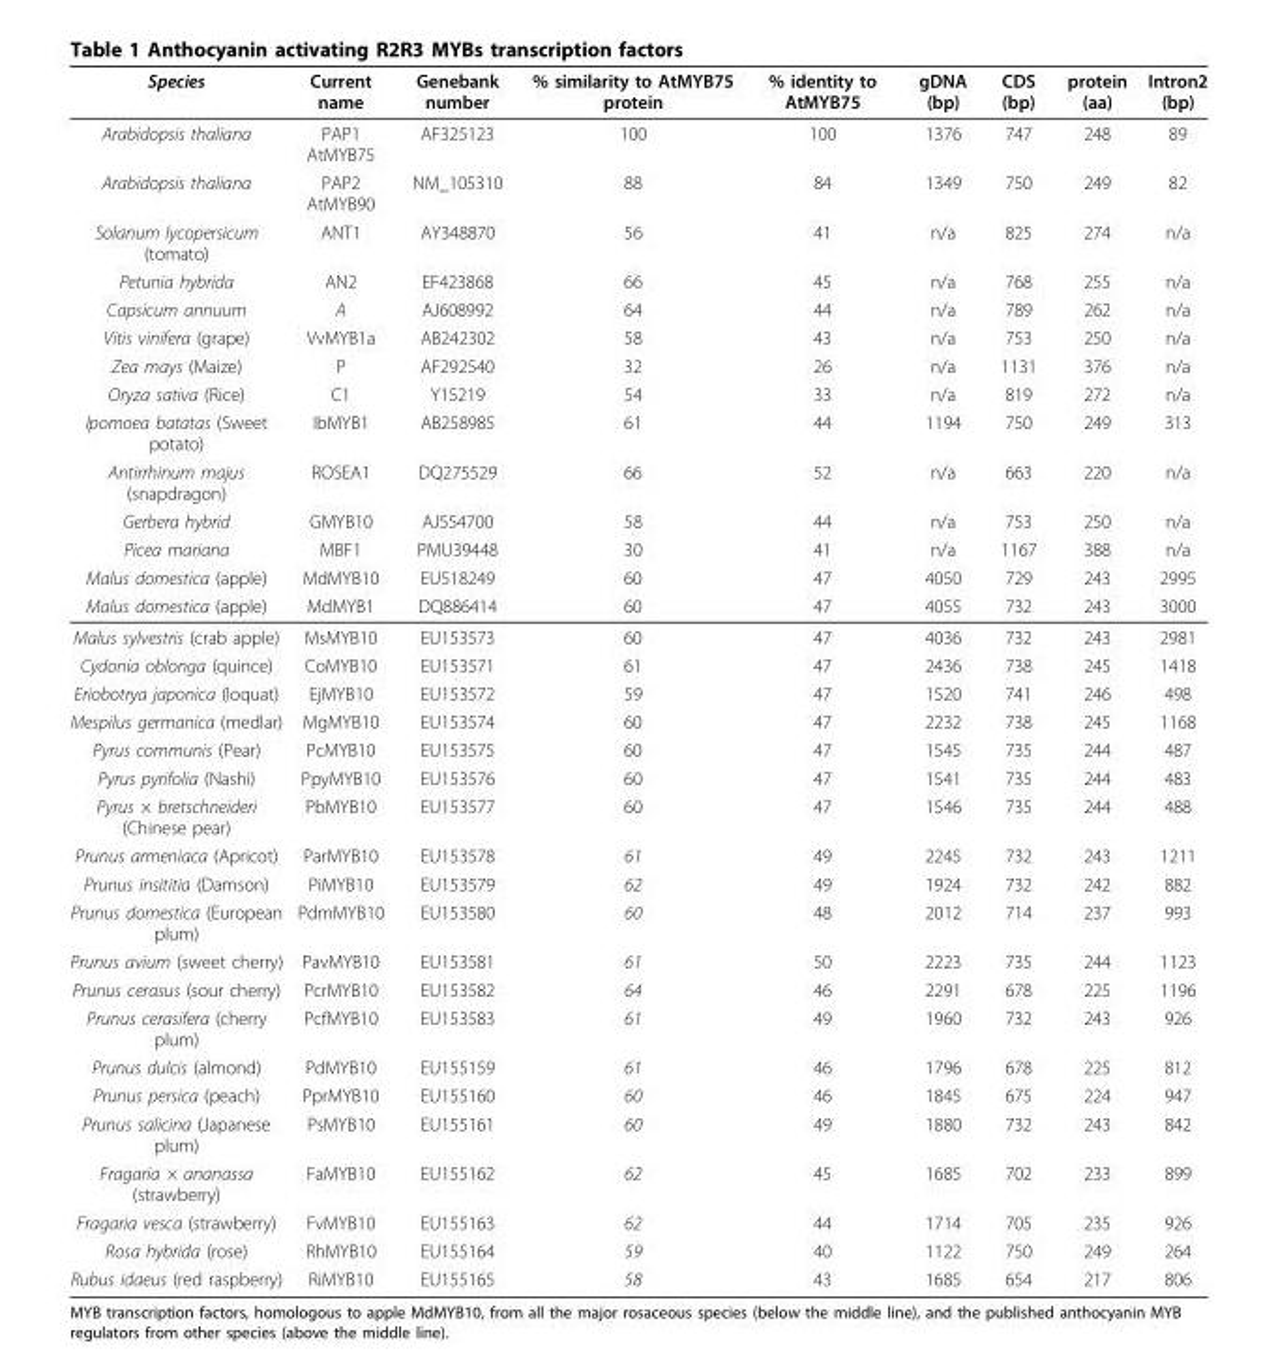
<table><thead><tr><td>Species</td><td>Current name</td><td>Genebank number</td><td>% similarity to AtMYB75 protein</td><td>% identity to AtMYB75</td><td>gDNA (bp)</td><td>CDS (bp)</td><td>protein (aa)</td><td>Intron2 (bp)</td></tr></thead><tbody><tr><td>Arabidopsis thaliana</td><td>PAP1 AtMYB75</td><td>AF325123</td><td>100</td><td>100</td><td>1376</td><td>747</td><td>248</td><td>89</td></tr><tr><td>Arabidopsis thaliana</td><td>PAP2 AtMYB90</td><td>NM_105310</td><td>88</td><td>84</td><td>1349</td><td>750</td><td>249</td><td>82</td></tr><tr><td>Solanum lycopersicum (tomato)</td><td>ANT1</td><td>AY348870</td><td>56</td><td>41</td><td>n/a</td><td>825</td><td>274</td><td>n/a</td></tr><tr><td>Petunia hybrida</td><td>AN2</td><td>EF423868</td><td>66</td><td>45</td><td>n/a</td><td>768</td><td>255</td><td>n/a</td></tr><tr><td>Capsicum annuum</td><td>A</td><td>AJ608992</td><td>64</td><td>44</td><td>n/a</td><td>789</td><td>262</td><td>n/a</td></tr><tr><td>Vitis vinifera (grape)</td><td>VvMYB1a</td><td>AB242302</td><td>58</td><td>43</td><td>n/a</td><td>753</td><td>250</td><td>n/a</td></tr><tr><td>Zea mays (Maize)</td><td>P</td><td>AF292540</td><td>32</td><td>26</td><td>n/a</td><td>1131</td><td>376</td><td>n/a</td></tr><tr><td>Oryza sativa (Rice)</td><td>C1</td><td>Y15219</td><td>54</td><td>33</td><td>n/a</td><td>819</td><td>272</td><td>n/a</td></tr><tr><td>Ipomoea batatas (Sweet potato)</td><td>IbMYB1</td><td>AB258985</td><td>61</td><td>44</td><td>1194</td><td>750</td><td>249</td><td>313</td></tr><tr><td>Antirrhinum majus (snapdragon)</td><td>ROSEA1</td><td>DQ275529</td><td>66</td><td>52</td><td>n/a</td><td>663</td><td>220</td><td>n/a</td></tr><tr><td>Gerbera hybrid</td><td>GMYB10</td><td>AJ554700</td><td>58</td><td>44</td><td>n/a</td><td>753</td><td>250</td><td>n/a</td></tr><tr><td>Picea mariana</td><td>MBF1</td><td>PMU39448</td><td>30</td><td>41</td><td>n/a</td><td>1167</td><td>388</td><td>n/a</td></tr><tr><td>Malus domestica (apple)</td><td>MdMYB10</td><td>EU518249</td><td>60</td><td>47</td><td>4050</td><td>729</td><td>243</td><td>2995</td></tr><tr><td>Malus domestica (apple)</td><td>MdMYB1</td><td>DQ886414</td><td>60</td><td>47</td><td>4055</td><td>732</td><td>243</td><td>3000</td></tr><tr><td>Malus sylvestris (crab apple)</td><td>MsMYB10</td><td>EU153573</td><td>60</td><td>47</td><td>4036</td><td>732</td><td>243</td><td>2981</td></tr><tr><td>Cydonia oblonga (quince)</td><td>CoMYB10</td><td>EU153571</td><td>61</td><td>47</td><td>2436</td><td>738</td><td>245</td><td>1418</td></tr><tr><td>Eriobotrya japonica (loquat)</td><td>EjMYB10</td><td>EU153572</td><td>59</td><td>47</td><td>1520</td><td>741</td><td>246</td><td>498</td></tr><tr><td>Mespilus germanica (medlar)</td><td>MgMYB10</td><td>EU153574</td><td>60</td><td>47</td><td>2232</td><td>738</td><td>245</td><td>1168</td></tr><tr><td>Pyrus communis (Pear)</td><td>PcMYB10</td><td>EU153575</td><td>60</td><td>47</td><td>1545</td><td>735</td><td>244</td><td>487</td></tr><tr><td>Pyrus pyrifolia (Nashi)</td><td>PpyMYB10</td><td>EU153576</td><td>60</td><td>47</td><td>1541</td><td>735</td><td>244</td><td>483</td></tr><tr><td>Pyrus × bretschneideri (Chinese pear)</td><td>PbMYB10</td><td>EU153577</td><td>60</td><td>47</td><td>1546</td><td>735</td><td>244</td><td>488</td></tr><tr><td>Prunus armeniaca (Apricot)</td><td>ParMYB10</td><td>EU153578</td><td>61</td><td>49</td><td>2245</td><td>732</td><td>243</td><td>1211</td></tr><tr><td>Prunus insititia (Damson)</td><td>PiMYB10</td><td>EU153579</td><td>62</td><td>49</td><td>1924</td><td>732</td><td>242</td><td>882</td></tr><tr><td>Prunus domestica (European plum)</td><td>PdmMYB10</td><td>EU153580</td><td>60</td><td>48</td><td>2012</td><td>714</td><td>237</td><td>993</td></tr><tr><td>Prunus avium (sweet cherry)</td><td>PavMYB10</td><td>EU153581</td><td>61</td><td>50</td><td>2223</td><td>735</td><td>244</td><td>1123</td></tr><tr><td>Prunus cerasus (sour cherry)</td><td>PcrMYB10</td><td>EU153582</td><td>64</td><td>46</td><td>2291</td><td>678</td><td>225</td><td>1196</td></tr><tr><td>Prunus cerasifera (cherry plum)</td><td>PcfMYB10</td><td>EU153583</td><td>61</td><td>49</td><td>1960</td><td>732</td><td>243</td><td>926</td></tr><tr><td>Prunus dulcis (almond)</td><td>PdMYB10</td><td>EU155159</td><td>61</td><td>46</td><td>1796</td><td>678</td><td>225</td><td>812</td></tr><tr><td>Prunus persica (peach)</td><td>PprMYB10</td><td>EU155160</td><td>60</td><td>46</td><td>1845</td><td>675</td><td>224</td><td>947</td></tr><tr><td>Prunus salicina (Japanese plum)</td><td>PsMYB10</td><td>EU155161</td><td>60</td><td>49</td><td>1880</td><td>732</td><td>243</td><td>842</td></tr><tr><td>Fragaria × ananassa (strawberry)</td><td>FaMYB10</td><td>EU155162</td><td>62</td><td>45</td><td>1685</td><td>702</td><td>233</td><td>899</td></tr><tr><td>Fragaria vesca (strawberry)</td><td>FvMYB10</td><td>EU155163</td><td>62</td><td>44</td><td>1714</td><td>705</td><td>235</td><td>926</td></tr><tr><td>Rosa hybrida (rose)</td><td>RhMYB10</td><td>EU155164</td><td>59</td><td>40</td><td>1122</td><td>750</td><td>249</td><td>264</td></tr><tr><td>Rubus idaeus (red raspberry)</td><td>RiMYB10</td><td>EU155165</td><td>58</td><td>43</td><td>1685</td><td>654</td><td>217</td><td>806</td></tr></tbody></table>